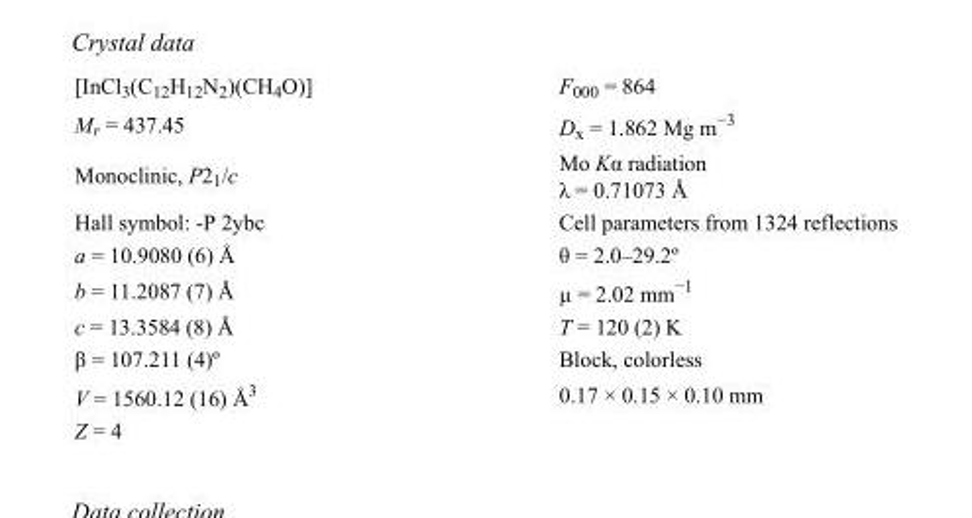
<table><tbody><tr><td>[InCl<sub>3</sub>(C<sub>12</sub>H<sub>12</sub>N<sub>2</sub>)(CH<sub>4</sub>O)]</td><td>F000 = 864</td></tr><tr><td>M<sub>r</sub> = 437.45</td><td>D<sub>x</sub> = 1.862 Mg m<sup>−3</sup></td></tr><tr><td>Monoclinic, P2<sub>1</sub>/c</td><td>Mo Kα radiation λ = 0.71073 Å</td></tr><tr><td>Hall symbol: -P 2ybc</td><td>Cell parameters from 1324 reflections</td></tr><tr><td>a = 10.9080 (6) Å</td><td>θ = 2.0–29.2º</td></tr><tr><td>b = 11.2087 (7) Å</td><td>µ = 2.02 mm<sup>−1</sup></td></tr><tr><td>c = 13.3584 (8) Å</td><td>T = 120 (2) K</td></tr><tr><td>β = 107.211 (4)º</td><td>Block, colorless</td></tr><tr><td>V = 1560.12 (16) Å<sup>3</sup></td><td>0.17 × 0.15 × 0.10 mm</td></tr><tr><td>Z = 4</td><td></td></tr></tbody></table>